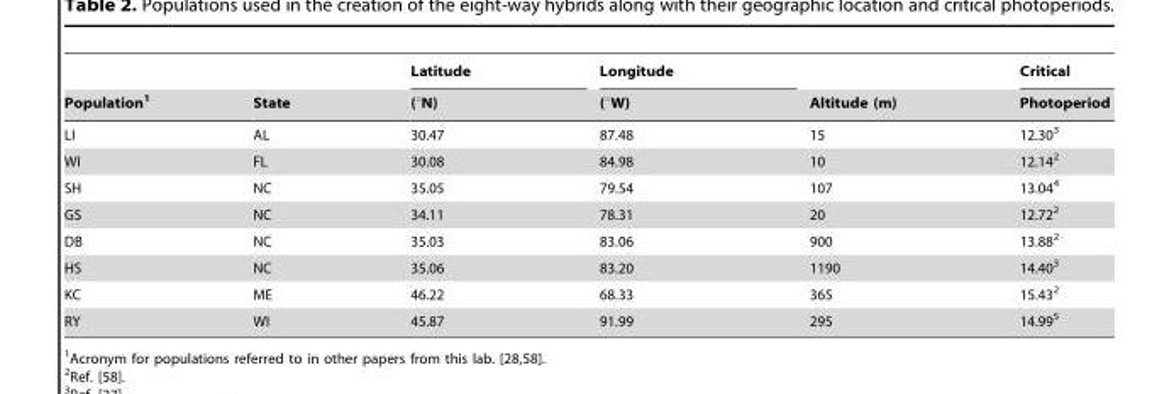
<table><thead><tr><td rowspan="2">Population<sup>1</sup></td><td rowspan="2">State</td><td rowspan="2">Latitude (°N)</td><td rowspan="2">Longitude (°W)</td><td rowspan="2">Altitude (m)</td><td rowspan="2">Critical Photoperiod</td></tr><tr></tr></thead><tbody><tr><td>LI</td><td>AL</td><td>30.47</td><td>87.48</td><td>15</td><td>12.30<sup>3</sup></td></tr><tr><td>WI</td><td>FL</td><td>30.08</td><td>84.98</td><td>10</td><td>12.14<sup>2</sup></td></tr><tr><td>SH</td><td>NC</td><td>35.05</td><td>79.54</td><td>107</td><td>13.04<sup>4</sup></td></tr><tr><td>GS</td><td>NC</td><td>34.11</td><td>78.31</td><td>20</td><td>12.72<sup>2</sup></td></tr><tr><td>DB</td><td>NC</td><td>35.03</td><td>83.06</td><td>900</td><td>13.88<sup>2</sup></td></tr><tr><td>HS</td><td>NC</td><td>35.06</td><td>83.20</td><td>1190</td><td>14.40<sup>3</sup></td></tr><tr><td>KC</td><td>ME</td><td>46.22</td><td>68.33</td><td>365</td><td>15.43<sup>2</sup></td></tr><tr><td>RY</td><td>WI</td><td>45.87</td><td>91.99</td><td>295</td><td>14.99<sup>5</sup></td></tr></tbody></table>